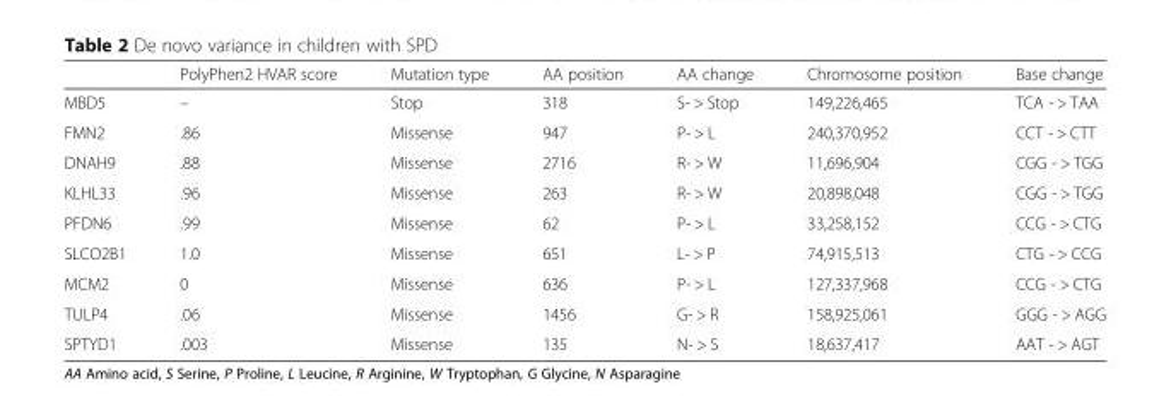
<table><thead><tr><td></td><td>PolyPhen2 HVAR score</td><td>Mutation type</td><td>AA position</td><td>AA change</td><td>Chromosome position</td><td>Base change</td></tr></thead><tbody><tr><td>MBD5</td><td>–</td><td>Stop</td><td>318</td><td>S- &gt; Stop</td><td>149,226,465</td><td>TCA - &gt; TAA</td></tr><tr><td>FMN2</td><td>.86</td><td>Missense</td><td>947</td><td>P- &gt; L</td><td>240,370,952</td><td>CCT - &gt; CTT</td></tr><tr><td>DNAH9</td><td>.88</td><td>Missense</td><td>2716</td><td>R- &gt; W</td><td>11,696,904</td><td>CGG - &gt; TGG</td></tr><tr><td>KLHL33</td><td>.96</td><td>Missense</td><td>263</td><td>R- &gt; W</td><td>20,898,048</td><td>CGG - &gt; TGG</td></tr><tr><td>PFDN6</td><td>.99</td><td>Missense</td><td>62</td><td>P- &gt; L</td><td>33,258,152</td><td>CCG - &gt; CTG</td></tr><tr><td>SLCO2B1</td><td>1.0</td><td>Missense</td><td>651</td><td>L- &gt; P</td><td>74,915,513</td><td>CTG - &gt; CCG</td></tr><tr><td>MCM2</td><td>0</td><td>Missense</td><td>636</td><td>P- &gt; L</td><td>127,337,968</td><td>CCG - &gt; CTG</td></tr><tr><td>TULP4</td><td>.06</td><td>Missense</td><td>1456</td><td>G- &gt; R</td><td>158,925,061</td><td>GGG - &gt; AGG</td></tr><tr><td>SPTYD1</td><td>.003</td><td>Missense</td><td>135</td><td>N- &gt; S</td><td>18,637,417</td><td>AAT - &gt; AGT</td></tr></tbody></table>